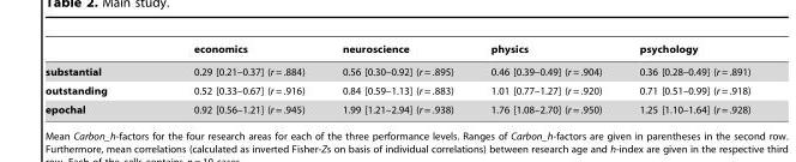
<table><thead><tr><td></td><td>economics</td><td>neuroscience</td><td>physics</td><td>psychology</td></tr></thead><tbody><tr><td>substantial</td><td>0.29 [0.21–0.37] (r = .884)</td><td>0.56 [0.30–0.92] (r = .895)</td><td>0.46 [0.39–0.49] (r = .904)</td><td>0.36 [0.28–0.49] (r = .891)</td></tr><tr><td>outstanding</td><td>0.52 [0.33–0.67] (r = .916)</td><td>0.84 [0.59–1.13] (r = .883)</td><td>1.01 [0.77–1.27] (r = .920)</td><td>0.71 [0.51–0.99] (r = .918)</td></tr><tr><td>epochal</td><td>0.92 [0.56–1.21] (r = .945)</td><td>1.99 [1.21–2.94] (r = .938)</td><td>1.76 [1.08–2.70] (r = .950)</td><td>1.25 [1.10–1.64] (r = .928)</td></tr></tbody></table>